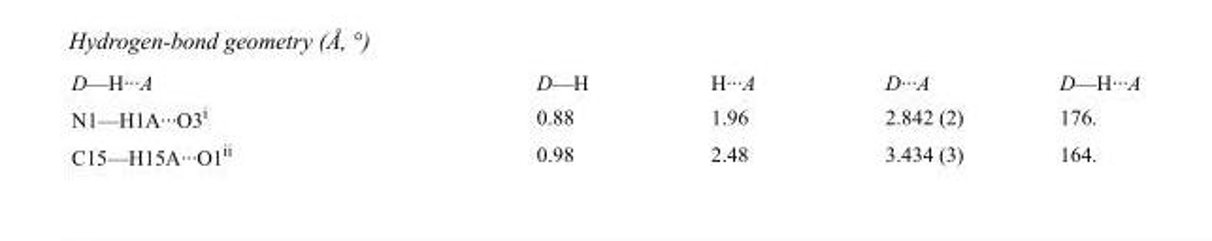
<table><tbody><tr><td>D—H···A</td><td>D—H</td><td>H···A</td><td>D···A</td><td>D—H···A</td></tr><tr><td>N1—H1A···O3<sup>i</sup></td><td>0.88</td><td>1.96</td><td>2.842 (2)</td><td>176.</td></tr><tr><td>C15—H15A···O1<sup>ii</sup></td><td>0.98</td><td>2.48</td><td>3.434 (3)</td><td>164.</td></tr></tbody></table>